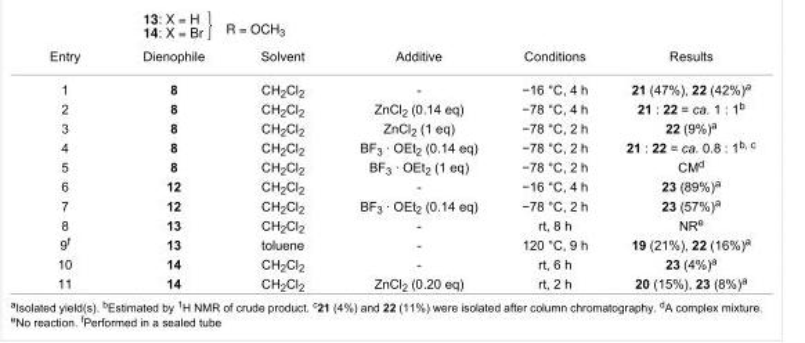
<table><tbody><tr><td>Entry</td><td>Dienophile</td><td>Solvent</td><td>Additive</td><td>Conditions</td><td>Results</td></tr><tr><td>1</td><td>8</td><td>CH<sub>2</sub>Cl<sub>2</sub></td><td>-</td><td>−16 °C, 4 h</td><td>21 (47%), 22 (42%)<sup>a</sup></td></tr><tr><td>2</td><td>8</td><td>CH<sub>2</sub>Cl<sub>2</sub></td><td>ZnCl<sub>2</sub> (0.14 eq)</td><td>−78 °C, 4 h</td><td>21 : 22 = ca. 1 : 1<sup>b</sup></td></tr><tr><td>3</td><td>8</td><td>CH<sub>2</sub>Cl<sub>2</sub></td><td>ZnCl<sub>2</sub> (1 eq)</td><td>−78 °C, 2 h</td><td>22 (9%)<sup>a</sup></td></tr><tr><td>4</td><td>8</td><td>CH<sub>2</sub>Cl<sub>2</sub></td><td>BF<sub>3</sub> · OEt<sub>2</sub> (0.14 eq)</td><td>−78 °C, 2 h</td><td>21 : 22 = ca. 0.8 : 1<sup>b, c</sup></td></tr><tr><td>5</td><td>8</td><td>CH<sub>2</sub>Cl<sub>2</sub></td><td>BF<sub>3</sub> · OEt<sub>2</sub> (1 eq)</td><td>−78 °C, 2 h</td><td>CM<sup>d</sup></td></tr><tr><td>6</td><td>12</td><td>CH<sub>2</sub>Cl<sub>2</sub></td><td>-</td><td>−16 °C, 4 h</td><td>23 (89%)<sup>a</sup></td></tr><tr><td>7</td><td>12</td><td>CH<sub>2</sub>Cl<sub>2</sub></td><td>BF<sub>3</sub> · OEt<sub>2</sub> (0.14 eq)</td><td>−78 °C, 2 h</td><td>23 (57%)<sup>a</sup></td></tr><tr><td>8</td><td>13</td><td>CH<sub>2</sub>Cl<sub>2</sub></td><td>-</td><td>rt, 8 h</td><td>NR<sup>e</sup></td></tr><tr><td>9<sup>f</sup></td><td>13</td><td>toluene</td><td>-</td><td>120 °C, 9 h</td><td>19 (21%), 22 (16%)<sup>a</sup></td></tr><tr><td>10</td><td>14</td><td>CH<sub>2</sub>Cl<sub>2</sub></td><td>-</td><td>rt, 6 h</td><td>23 (4%)<sup>a</sup></td></tr><tr><td>11</td><td>14</td><td>CH<sub>2</sub>Cl<sub>2</sub></td><td>ZnCl<sub>2</sub> (0.20 eq)</td><td>rt, 2 h</td><td>20 (15%), 23 (8%)<sup>a</sup></td></tr></tbody></table>